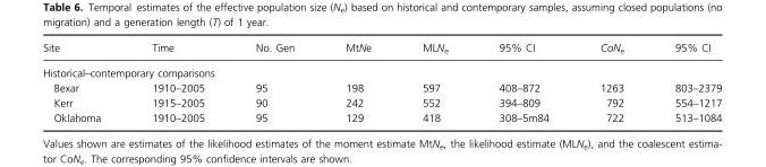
<table><thead><tr><td>Site</td><td>Time</td><td>No. Gen</td><td>MtNe</td><td>MLN<sub>e</sub></td><td>95% CI</td><td>CoN<sub>e</sub></td><td>95% CI</td></tr></thead><tbody><tr><td colspan="8">Historical–contemporary comparisons</td></tr><tr><td>Bexar</td><td>1910–2005</td><td>95</td><td>198</td><td>597</td><td>408–872</td><td>1263</td><td>803–2379</td></tr><tr><td>Kerr</td><td>1915–2005</td><td>90</td><td>242</td><td>552</td><td>394–809</td><td>792</td><td>554–1217</td></tr><tr><td>Oklahoma</td><td>1910–2005</td><td>95</td><td>129</td><td>418</td><td>308–5m84</td><td>722</td><td>513–1084</td></tr></tbody></table>